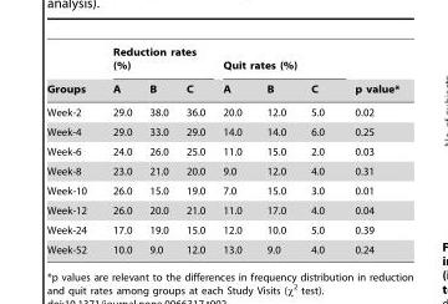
<table><thead><tr><td rowspan="2">Groups</td><td colspan="3">Reduction rates (%)</td><td colspan="3">Quit rates (%)</td><td rowspan="2">p value*</td></tr><tr><td>A</td><td>B</td><td>C</td><td>A</td><td>B</td><td>C</td></tr></thead><tbody><tr><td>Week-2</td><td>29.0</td><td>38.0</td><td>36.0</td><td>20.0</td><td>12.0</td><td>5.0</td><td>0.02</td></tr><tr><td>Week-4</td><td>29.0</td><td>33.0</td><td>29.0</td><td>14.0</td><td>14.0</td><td>6.0</td><td>0.25</td></tr><tr><td>Week-6</td><td>24.0</td><td>26.0</td><td>25.0</td><td>11.0</td><td>15.0</td><td>2.0</td><td>0.03</td></tr><tr><td>Week-8</td><td>23.0</td><td>21.0</td><td>20.0</td><td>9.0</td><td>12.0</td><td>4.0</td><td>0.31</td></tr><tr><td>Week-10</td><td>26.0</td><td>15.0</td><td>19.0</td><td>7.0</td><td>15.0</td><td>3.0</td><td>0.01</td></tr><tr><td>Week-12</td><td>26.0</td><td>20.0</td><td>21.0</td><td>11.0</td><td>17.0</td><td>4.0</td><td>0.04</td></tr><tr><td>Week-24</td><td>17.0</td><td>19.0</td><td>15.0</td><td>12.0</td><td>10.0</td><td>5.0</td><td>0.39</td></tr><tr><td>Week-52</td><td>10.0</td><td>9.0</td><td>12.0</td><td>13.0</td><td>9.0</td><td>4.0</td><td>0.24</td></tr></tbody></table>